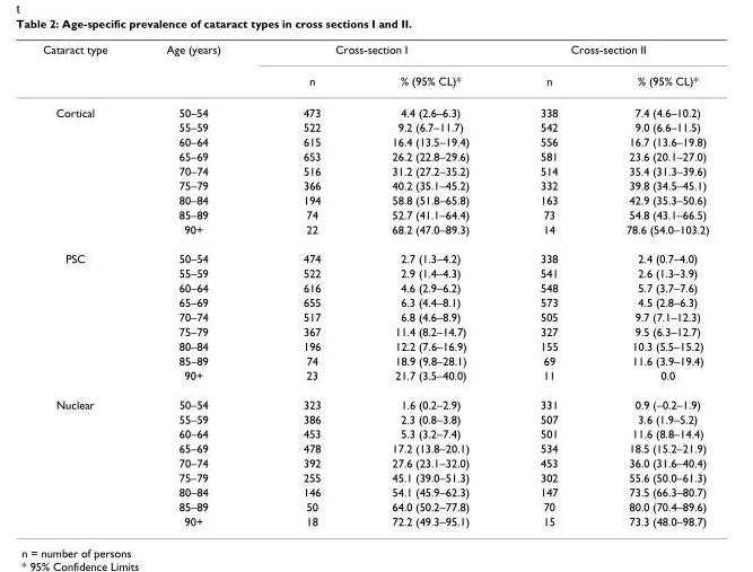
<table><thead><tr><td rowspan="2">Cataract type</td><td rowspan="2">Age (years)</td><td colspan="2">Cross-section I</td><td colspan="2">Cross-section II</td></tr><tr><td>n</td><td>% (95% CL)*</td><td>n</td><td>% (95% CL)*</td></tr></thead><tbody><tr><td rowspan="9">Cortical</td><td>50–54</td><td>473</td><td>4.4 (2.6–6.3)</td><td>338</td><td>7.4 (4.6–10.2)</td></tr><tr><td>55–59</td><td>522</td><td>9.2 (6.7–11.7)</td><td>542</td><td>9.0 (6.6–11.5)</td></tr><tr><td>60–64</td><td>615</td><td>16.4 (13.5–19.4)</td><td>556</td><td>16.7 (13.6–19.8)</td></tr><tr><td>65–69</td><td>653</td><td>26.2 (22.8–29.6)</td><td>581</td><td>23.6 (20.1–27.0)</td></tr><tr><td>70–74</td><td>516</td><td>31.2 (27.2–35.2)</td><td>514</td><td>35.4 (31.3–39.6)</td></tr><tr><td>75–79</td><td>366</td><td>40.2 (35.1–45.2)</td><td>332</td><td>39.8 (34.5–45.1)</td></tr><tr><td>80–84</td><td>194</td><td>58.8 (51.8–65.8)</td><td>163</td><td>42.9 (35.3–50.6)</td></tr><tr><td>85–89</td><td>74</td><td>52.7 (41.1–64.4)</td><td>73</td><td>54.8 (43.1–66.5)</td></tr><tr><td>90+</td><td>22</td><td>68.2 (47.0–89.3)</td><td>14</td><td>78.6 (54.0–103.2)</td></tr><tr><td rowspan="9">PSC</td><td>50–54</td><td>474</td><td>2.7 (1.3–4.2)</td><td>338</td><td>2.4 (0.7–4.0)</td></tr><tr><td>55–59</td><td>522</td><td>2.9 (1.4–4.3)</td><td>541</td><td>2.6 (1.3–3.9)</td></tr><tr><td>60–64</td><td>616</td><td>4.6 (2.9–6.2)</td><td>548</td><td>5.7 (3.7–7.6)</td></tr><tr><td>65–69</td><td>655</td><td>6.3 (4.4–8.1)</td><td>573</td><td>4.5 (2.8–6.3)</td></tr><tr><td>70–74</td><td>517</td><td>6.8 (4.6–8.9)</td><td>505</td><td>9.7 (7.1–12.3)</td></tr><tr><td>75–79</td><td>367</td><td>11.4 (8.2–14.7)</td><td>327</td><td>9.5 (6.3–12.7)</td></tr><tr><td>80–84</td><td>196</td><td>12.2 (7.6–16.9)</td><td>155</td><td>10.3 (5.5–15.2)</td></tr><tr><td>85–89</td><td>74</td><td>18.9 (9.8–28.1)</td><td>69</td><td>11.6 (3.9–19.4)</td></tr><tr><td>90+</td><td>23</td><td>21.7 (3.5–40.0)</td><td>11</td><td>0.0</td></tr><tr><td rowspan="9">Nuclear</td><td>50–54</td><td>323</td><td>1.6 (0.2–2.9)</td><td>331</td><td>0.9 (–0.2–1.9)</td></tr><tr><td>55–59</td><td>386</td><td>2.3 (0.8–3.8)</td><td>507</td><td>3.6 (1.9–5.2)</td></tr><tr><td>60–64</td><td>453</td><td>5.3 (3.2–7.4)</td><td>501</td><td>11.6 (8.8–14.4)</td></tr><tr><td>65–69</td><td>478</td><td>17.2 (13.8–20.1)</td><td>534</td><td>18.5 (15.2–21.9)</td></tr><tr><td>70–74</td><td>392</td><td>27.6 (23.1–32.0)</td><td>453</td><td>36.0 (31.6–40.4)</td></tr><tr><td>75–79</td><td>255</td><td>45.1 (39.0–51.3)</td><td>302</td><td>55.6 (50.0–61.3)</td></tr><tr><td>80–84</td><td>146</td><td>54.1 (45.9–62.3)</td><td>147</td><td>73.5 (66.3–80.7)</td></tr><tr><td>85–89</td><td>50</td><td>64.0 (50.2–77.8)</td><td>70</td><td>80.0 (70.4–89.6)</td></tr><tr><td>90+</td><td>18</td><td>72.2 (49.3–95.1)</td><td>15</td><td>73.3 (48.0–98.7)</td></tr></tbody></table>